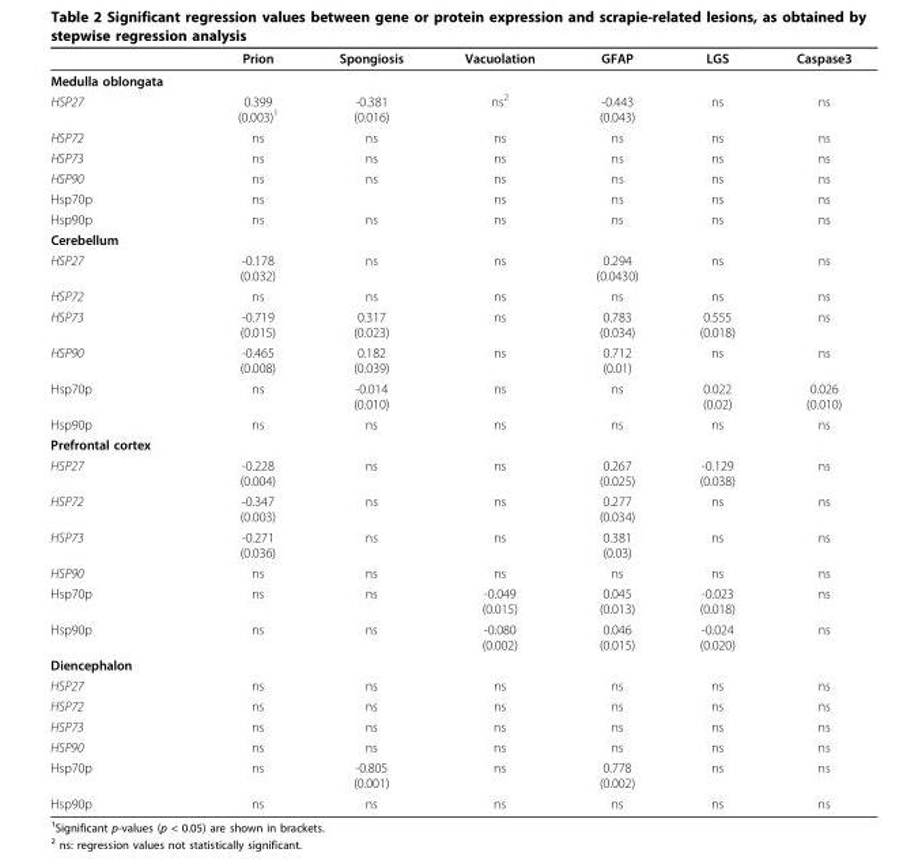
<table><thead><tr><td></td><td>Prion</td><td>Spongiosis</td><td>Vacuolation</td><td>GFAP</td><td>LGS</td><td>Caspase3</td></tr></thead><tbody><tr><td colspan="7">Medulla oblongata</td></tr><tr><td>HSP27</td><td>0.399 (0.003)<sup>1</sup></td><td>-0.381 (0.016)</td><td>ns<sup>2</sup></td><td>-0.443 (0.043)</td><td>ns</td><td>ns</td></tr><tr><td>HSP72</td><td>ns</td><td>ns</td><td>ns</td><td>ns</td><td>ns</td><td>ns</td></tr><tr><td>HSP73</td><td>ns</td><td>ns</td><td>ns</td><td>ns</td><td>ns</td><td>ns</td></tr><tr><td>HSP90</td><td>ns</td><td>ns</td><td>ns</td><td>ns</td><td>ns</td><td>ns</td></tr><tr><td>Hsp70p</td><td>ns</td><td></td><td>ns</td><td>ns</td><td>ns</td><td>ns</td></tr><tr><td>Hsp90p</td><td>ns</td><td>ns</td><td>ns</td><td>ns</td><td>ns</td><td>ns</td></tr><tr><td colspan="7">Cerebellum</td></tr><tr><td>HSP27</td><td>-0.178 (0.032)</td><td>ns</td><td>ns</td><td>0.294 (0.0430)</td><td>ns</td><td>ns</td></tr><tr><td>HSP72</td><td>ns</td><td>ns</td><td>ns</td><td>ns</td><td>ns</td><td>ns</td></tr><tr><td>HSP73</td><td>-0.719 (0.015)</td><td>0.317 (0.023)</td><td>ns</td><td>0.783 (0.034)</td><td>0.555 (0.018)</td><td>ns</td></tr><tr><td>HSP90</td><td>-0.465 (0.008)</td><td>0.182 (0.039)</td><td>ns</td><td>0.712 (0.01)</td><td>ns</td><td>ns</td></tr><tr><td>Hsp70p</td><td>ns</td><td>-0.014 (0.010)</td><td>ns</td><td>ns</td><td>0.022 (0.02)</td><td>0.026 (0.010)</td></tr><tr><td>Hsp90p</td><td>ns</td><td>ns</td><td>ns</td><td>ns</td><td>ns</td><td>ns</td></tr><tr><td colspan="7">Prefrontal cortex</td></tr><tr><td>HSP27</td><td>-0.228 (0.004)</td><td>ns</td><td>ns</td><td>0.267 (0.025)</td><td>-0.129 (0.038)</td><td>ns</td></tr><tr><td>HSP72</td><td>-0.347 (0.003)</td><td>ns</td><td>ns</td><td>0.277 (0.034)</td><td>ns</td><td>ns</td></tr><tr><td>HSP73</td><td>-0.271 (0.036)</td><td>ns</td><td>ns</td><td>0.381 (0.03)</td><td>ns</td><td>ns</td></tr><tr><td>HSP90</td><td>ns</td><td>ns</td><td>ns</td><td>ns</td><td>ns</td><td>ns</td></tr><tr><td>Hsp70p</td><td>ns</td><td>ns</td><td>-0.049 (0.015)</td><td>0.045 (0.013)</td><td>-0.023 (0.018)</td><td>ns</td></tr><tr><td>Hsp90p</td><td>ns</td><td>ns</td><td>-0.080 (0.002)</td><td>0.046 (0.015)</td><td>-0.024 (0.020)</td><td>ns</td></tr><tr><td colspan="7">Diencephalon</td></tr><tr><td>HSP27</td><td>ns</td><td>ns</td><td>ns</td><td>ns</td><td>ns</td><td>ns</td></tr><tr><td>HSP72</td><td>ns</td><td>ns</td><td>ns</td><td>ns</td><td>ns</td><td>ns</td></tr><tr><td>HSP73</td><td>ns</td><td>ns</td><td>ns</td><td>ns</td><td>ns</td><td>ns</td></tr><tr><td>HSP90</td><td>ns</td><td>ns</td><td>ns</td><td>ns</td><td>ns</td><td>ns</td></tr><tr><td>Hsp70p</td><td>ns</td><td>-0.805 (0.001)</td><td>ns</td><td>0.778 (0.002)</td><td>ns</td><td>ns</td></tr><tr><td>Hsp90p</td><td>ns</td><td>ns</td><td>ns</td><td>ns</td><td>ns</td><td>ns</td></tr></tbody></table>